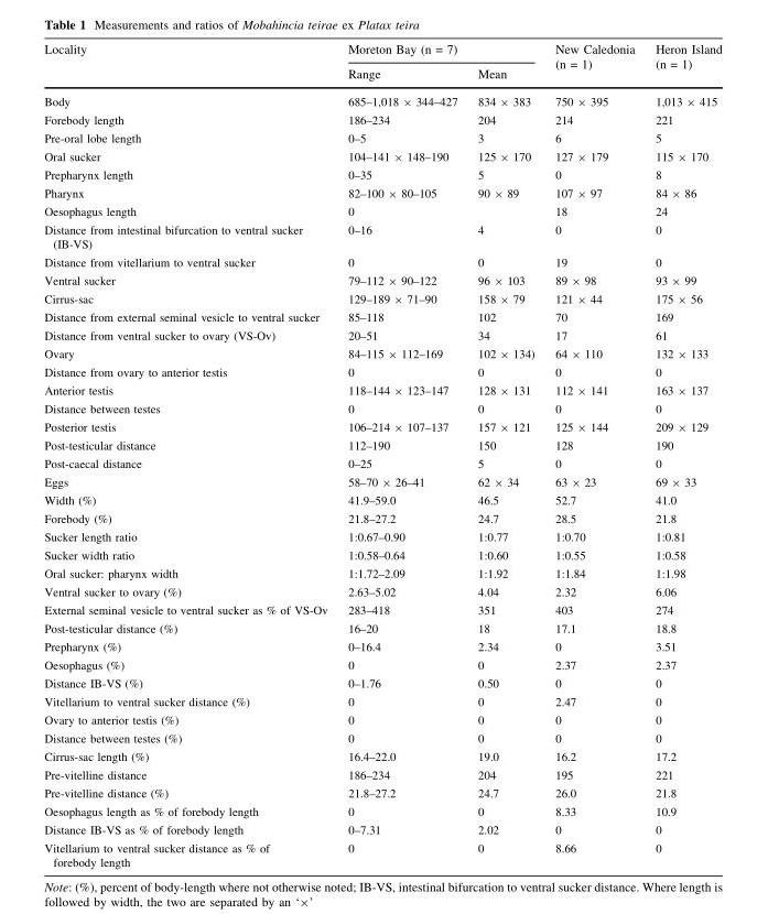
<table><thead><tr><td rowspan="2">Locality</td><td colspan="2">Moreton Bay (n = 7)</td><td rowspan="2">New Caledonia (n = 1)</td><td rowspan="2">Heron Island (n = 1)</td></tr><tr><td>Range</td><td>Mean</td></tr></thead><tbody><tr><td>Body</td><td>685–1,018 × 344–427</td><td>834 × 383</td><td>750 × 395</td><td>1,013 × 415</td></tr><tr><td>Forebody length</td><td>186–234</td><td>204</td><td>214</td><td>221</td></tr><tr><td>Pre-oral lobe length</td><td>0–5</td><td>3</td><td>6</td><td>5</td></tr><tr><td>Oral sucker</td><td>104–141 × 148–190</td><td>125 × 170</td><td>127 × 179</td><td>115 × 170</td></tr><tr><td>Prepharynx length</td><td>0–35</td><td>5</td><td>0</td><td>8</td></tr><tr><td>Pharynx</td><td>82–100 × 80–105</td><td>90 × 89</td><td>107 × 97</td><td>84 × 86</td></tr><tr><td>Oesophagus length</td><td>0</td><td></td><td>18</td><td>24</td></tr><tr><td>Distance from intestinal bifurcation to ventral sucker (IB-VS)</td><td>0–16</td><td>4</td><td>0</td><td>0</td></tr><tr><td>Distance from vitellarium to ventral sucker</td><td>0</td><td>0</td><td>19</td><td>0</td></tr><tr><td>Ventral sucker</td><td>79–112 × 90–122</td><td>96 × 103</td><td>89 × 98</td><td>93 × 99</td></tr><tr><td>Cirrus-sac</td><td>129–189 × 71–90</td><td>158 × 79</td><td>121 × 44</td><td>175 × 56</td></tr><tr><td>Distance from external seminal vesicle to ventral sucker</td><td>85–118</td><td>102</td><td>70</td><td>169</td></tr><tr><td>Distance from ventral sucker to ovary (VS-Ov)</td><td>20–51</td><td>34</td><td>17</td><td>61</td></tr><tr><td>Ovary</td><td>84–115 × 112–169</td><td>102 × 134)</td><td>64 × 110</td><td>132 × 133</td></tr><tr><td>Distance from ovary to anterior testis</td><td>0</td><td>0</td><td>0</td><td>0</td></tr><tr><td>Anterior testis</td><td>118–144 × 123–147</td><td>128 × 131</td><td>112 × 141</td><td>163 × 137</td></tr><tr><td>Distance between testes</td><td>0</td><td>0</td><td>0</td><td>0</td></tr><tr><td>Posterior testis</td><td>106–214 × 107–137</td><td>157 × 121</td><td>125 × 144</td><td>209 × 129</td></tr><tr><td>Post-testicular distance</td><td>112–190</td><td>150</td><td>128</td><td>190</td></tr><tr><td>Post-caecal distance</td><td>0–25</td><td>5</td><td>0</td><td>0</td></tr><tr><td>Eggs</td><td>58–70 × 26–41</td><td>62 × 34</td><td>63 × 23</td><td>69 × 33</td></tr><tr><td>Width (%)</td><td>41.9–59.0</td><td>46.5</td><td>52.7</td><td>41.0</td></tr><tr><td>Forebody (%)</td><td>21.8–27.2</td><td>24.7</td><td>28.5</td><td>21.8</td></tr><tr><td>Sucker length ratio</td><td>1:0.67–0.90</td><td>1:0.77</td><td>1:0.70</td><td>1:0.81</td></tr><tr><td>Sucker width ratio</td><td>1:0.58–0.64</td><td>1:0.60</td><td>1:0.55</td><td>1:0.58</td></tr><tr><td>Oral sucker: pharynx width</td><td>1:1.72–2.09</td><td>1:1.92</td><td>1:1.84</td><td>1:1.98</td></tr><tr><td>Ventral sucker to ovary (%)</td><td>2.63–5.02</td><td>4.04</td><td>2.32</td><td>6.06</td></tr><tr><td>External seminal vesicle to ventral sucker as % of VS-Ov</td><td>283–418</td><td>351</td><td>403</td><td>274</td></tr><tr><td>Post-testicular distance (%)</td><td>16–20</td><td>18</td><td>17.1</td><td>18.8</td></tr><tr><td>Prepharynx (%)</td><td>0–16.4</td><td>2.34</td><td>0</td><td>3.51</td></tr><tr><td>Oesophagus (%)</td><td>0</td><td>0</td><td>2.37</td><td>2.37</td></tr><tr><td>Distance IB-VS (%)</td><td>0–1.76</td><td>0.50</td><td>0</td><td>0</td></tr><tr><td>Vitellarium to ventral sucker distance (%)</td><td>0</td><td>0</td><td>2.47</td><td>0</td></tr><tr><td>Ovary to anterior testis (%)</td><td>0</td><td>0</td><td>0</td><td>0</td></tr><tr><td>Distance between testes (%)</td><td>0</td><td>0</td><td>0</td><td>0</td></tr><tr><td>Cirrus-sac length (%)</td><td>16.4–22.0</td><td>19.0</td><td>16.2</td><td>17.2</td></tr><tr><td>Pre-vitelline distance</td><td>186–234</td><td>204</td><td>195</td><td>221</td></tr><tr><td>Pre-vitelline distance (%)</td><td>21.8–27.2</td><td>24.7</td><td>26.0</td><td>21.8</td></tr><tr><td>Oesophagus length as % of forebody length</td><td>0</td><td>0</td><td>8.33</td><td>10.9</td></tr><tr><td>Distance IB-VS as % of forebody length</td><td>0–7.31</td><td>2.02</td><td>0</td><td>0</td></tr><tr><td>Vitellarium to ventral sucker distance as % of forebody length</td><td>0</td><td>0</td><td>8.66</td><td>0</td></tr></tbody></table>